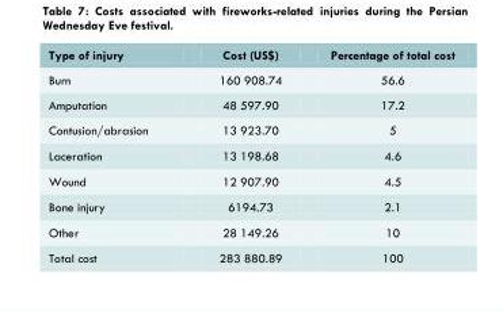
<table><thead><tr><td>Type of injury</td><td>Cost (US$)</td><td>Percentage of total cost</td></tr></thead><tbody><tr><td>Burn</td><td>160 908.74</td><td>56.6</td></tr><tr><td>Amputation</td><td>48 597.90</td><td>17.2</td></tr><tr><td>Contusion/abrasion</td><td>13 923.70</td><td>5</td></tr><tr><td>Laceration</td><td>13 198.68</td><td>4.6</td></tr><tr><td>Wound</td><td>12 907.90</td><td>4.5</td></tr><tr><td>Bone injury</td><td>6194.73</td><td>2.1</td></tr><tr><td>Other</td><td>28 149.26</td><td>10</td></tr><tr><td>Total cost</td><td>283 880.89</td><td>100</td></tr></tbody></table>